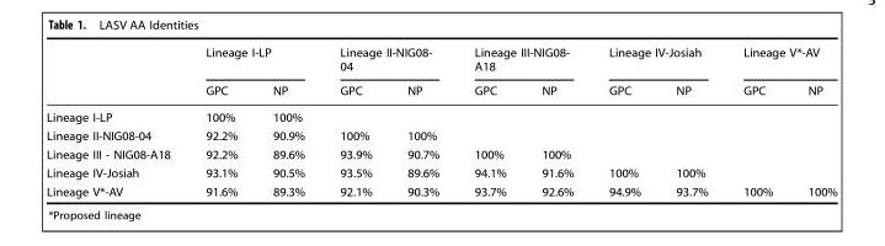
<table><thead><tr><td rowspan="2"></td><td colspan="2">Lineage I-LP</td><td colspan="2">Lineage II-NIG08- 04</td><td colspan="2">Lineage III-NIG08- A18</td><td colspan="2">Lineage IV-Josiah</td><td colspan="2">Lineage V*-AV</td></tr><tr><td>GPC</td><td>NP</td><td>GPC</td><td>NP</td><td>GPC</td><td>NP</td><td>GPC</td><td>NP</td><td>GPC</td><td>NP</td></tr></thead><tbody><tr><td>Lineage I-LP</td><td>100%</td><td>100%</td><td></td><td></td><td></td><td></td><td></td><td></td><td></td><td></td></tr><tr><td>Lineage II-NIG08-04</td><td>92.2%</td><td>90.9%</td><td>100%</td><td>100%</td><td></td><td></td><td></td><td></td><td></td><td></td></tr><tr><td>Lineage III - NIG08-A18</td><td>92.2%</td><td>89.6%</td><td>93.9%</td><td>90.7%</td><td>100%</td><td>100%</td><td></td><td></td><td></td><td></td></tr><tr><td>Lineage IV-Josiah</td><td>93.1%</td><td>90.5%</td><td>93.5%</td><td>89.6%</td><td>94.1%</td><td>91.6%</td><td>100%</td><td>100%</td><td></td><td></td></tr><tr><td>Lineage V*-AV</td><td>91.6%</td><td>89.3%</td><td>92.1%</td><td>90.3%</td><td>93.7%</td><td>92.6%</td><td>94.9%</td><td>93.7%</td><td>100%</td><td>100%</td></tr></tbody></table>